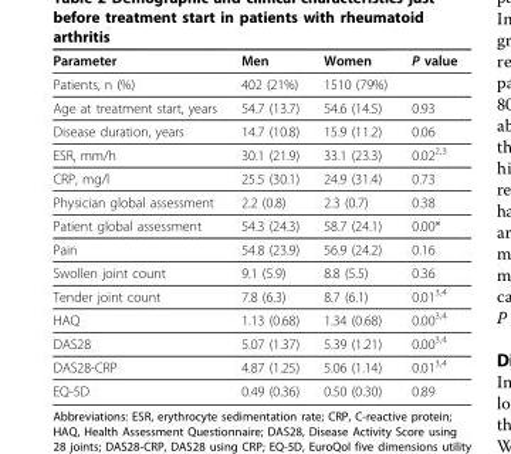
<table><thead><tr><td>Parameter</td><td>Men</td><td>Women</td><td>P value</td></tr></thead><tbody><tr><td>Patients, n (%)</td><td>402 (21%)</td><td>1510 (79%)</td><td></td></tr><tr><td>Age at treatment start, years</td><td>54.7 (13.7)</td><td>54.6 (14.5)</td><td>0.93</td></tr><tr><td>Disease duration, years</td><td>14.7 (10.8)</td><td>15.9 (11.2)</td><td>0.06</td></tr><tr><td>ESR, mm/h</td><td>30.1 (21.9)</td><td>33.1 (23.3)</td><td>0.02<sup>2,3</sup></td></tr><tr><td>CRP, mg/l</td><td>25.5 (30.1)</td><td>24.9 (31.4)</td><td>0.73</td></tr><tr><td>Physician global assessment</td><td>2.2 (0.8)</td><td>2.3 (0.7)</td><td>0.38</td></tr><tr><td>Patient global assessment</td><td>54.3 (24.3)</td><td>58.7 (24.1)</td><td>0.00*</td></tr><tr><td>Pain</td><td>54.8 (23.9)</td><td>56.9 (24.2)</td><td>0.16</td></tr><tr><td>Swollen joint count</td><td>9.1 (5.9)</td><td>8.8 (5.5)</td><td>0.36</td></tr><tr><td>Tender joint count</td><td>7.8 (6.3)</td><td>8.7 (6.1)</td><td>0.01<sup>3,4</sup></td></tr><tr><td>HAQ</td><td>1.13 (0.68)</td><td>1.34 (0.68)</td><td>0.00<sup>3,4</sup></td></tr><tr><td>DAS28</td><td>5.07 (1.37)</td><td>5.39 (1.21)</td><td>0.00<sup>3,4</sup></td></tr><tr><td>DAS28-CRP</td><td>4.87 (1.25)</td><td>5.06 (1.14)</td><td>0.01<sup>3,4</sup></td></tr><tr><td>EQ-5D</td><td>0.49 (0.36)</td><td>0.50 (0.30)</td><td>0.89</td></tr></tbody></table>